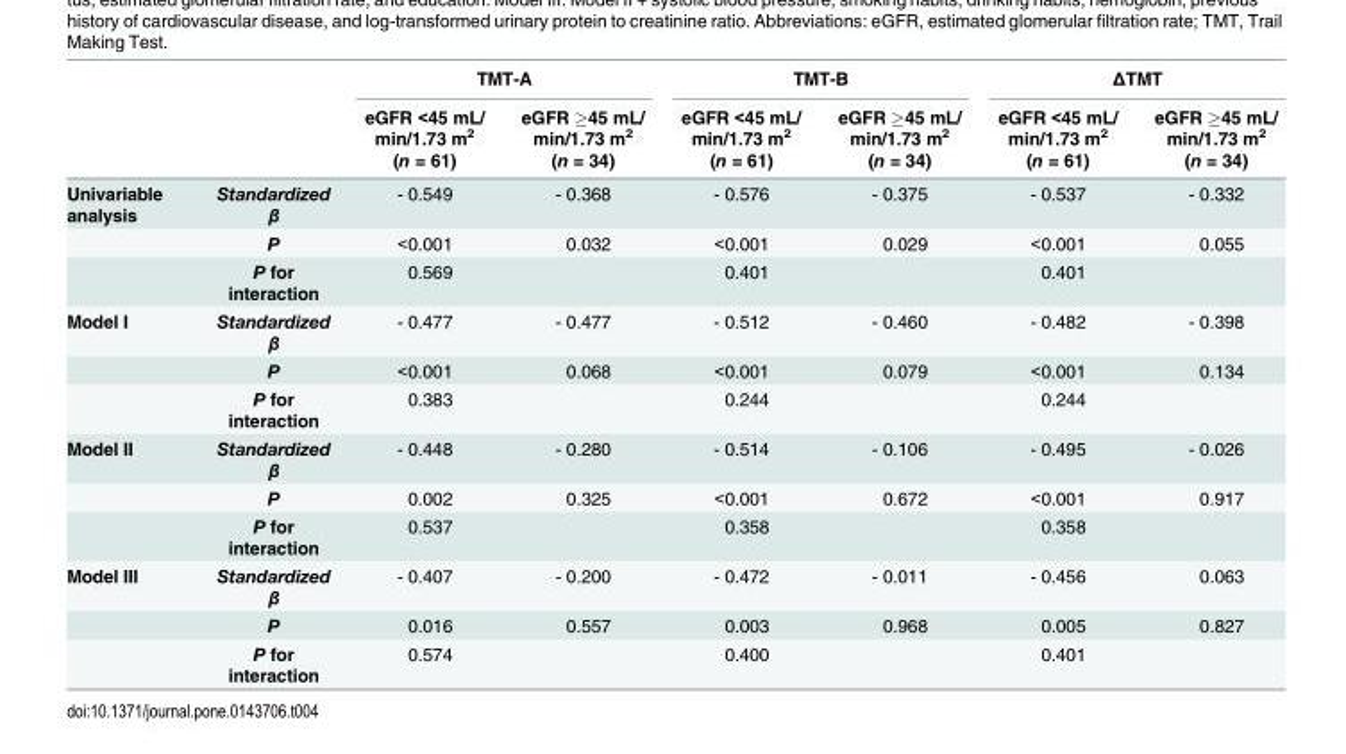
<table><thead><tr><td rowspan="2"></td><td rowspan="2"></td><td colspan="2">TMT-A</td><td colspan="2">TMT-B</td><td colspan="2">ΔTMT</td></tr><tr><td>eGFR &lt;45 mL/ min/1.73 m<sup>2</sup> (n = 61)</td><td>eGFR ≥45 mL/ min/1.73 m<sup>2</sup> (n = 34)</td><td>eGFR &lt;45 mL/ min/1.73 m<sup>2</sup> (n = 61)</td><td>eGFR ≥45 mL/ min/1.73 m<sup>2</sup> (n = 34)</td><td>eGFR &lt;45 mL/ min/1.73 m<sup>2</sup> (n = 61)</td><td>eGFR ≥45 mL/ min/1.73 m<sup>2</sup> (n = 34)</td></tr></thead><tbody><tr><td rowspan="3">Univariable analysis</td><td>Standardized β</td><td>- 0.549</td><td>- 0.368</td><td>- 0.576</td><td>- 0.375</td><td>- 0.537</td><td>- 0.332</td></tr><tr><td>P</td><td>&lt;0.001</td><td>0.032</td><td>&lt;0.001</td><td>0.029</td><td>&lt;0.001</td><td>0.055</td></tr><tr><td>P for interaction</td><td colspan="2">0.569</td><td colspan="2">0.401</td><td colspan="2">0.401</td></tr><tr><td rowspan="3">Model I</td><td>Standardized β</td><td>- 0.477</td><td>- 0.477</td><td>- 0.512</td><td>- 0.460</td><td>- 0.482</td><td>- 0.398</td></tr><tr><td>P</td><td>&lt;0.001</td><td>0.068</td><td>&lt;0.001</td><td>0.079</td><td>&lt;0.001</td><td>0.134</td></tr><tr><td>P for interaction</td><td colspan="2">0.383</td><td colspan="2">0.244</td><td colspan="2">0.244</td></tr><tr><td rowspan="3">Model II</td><td>Standardized β</td><td>- 0.448</td><td>- 0.280</td><td>- 0.514</td><td>- 0.106</td><td>- 0.495</td><td>- 0.026</td></tr><tr><td>P</td><td>0.002</td><td>0.325</td><td>&lt;0.001</td><td>0.672</td><td>&lt;0.001</td><td>0.917</td></tr><tr><td>P for interaction</td><td colspan="2">0.537</td><td colspan="2">0.358</td><td colspan="2">0.358</td></tr><tr><td rowspan="3">Model III</td><td>Standardized β</td><td>- 0.407</td><td>- 0.200</td><td>- 0.472</td><td>- 0.011</td><td>- 0.456</td><td>0.063</td></tr><tr><td>P</td><td>0.016</td><td>0.557</td><td>0.003</td><td>0.968</td><td>0.005</td><td>0.827</td></tr><tr><td>P for interaction</td><td colspan="2">0.574</td><td colspan="2">0.400</td><td colspan="2">0.401</td></tr></tbody></table>